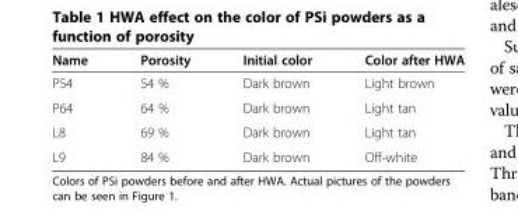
<table><thead><tr><td>Name</td><td>Porosity</td><td>Initial color</td><td>Color after HWA</td></tr></thead><tbody><tr><td>P54</td><td>54 %</td><td>Dark brown</td><td>Light brown</td></tr><tr><td>P64</td><td>64 %</td><td>Dark brown</td><td>Light tan</td></tr><tr><td>L8</td><td>69 %</td><td>Dark brown</td><td>Light tan</td></tr><tr><td>L9</td><td>84 %</td><td>Dark brown</td><td>Off-white</td></tr></tbody></table>